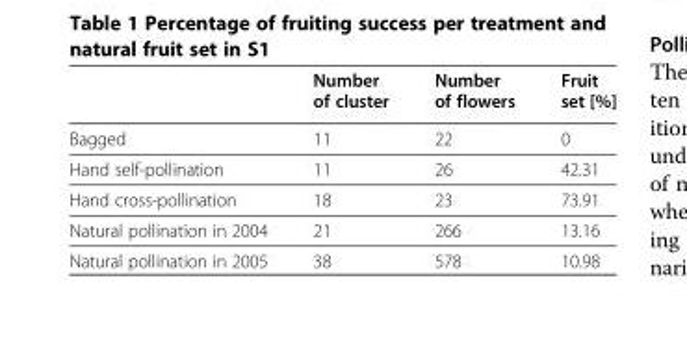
<table><thead><tr><td></td><td>Number of cluster</td><td>Number of flowers</td><td>Fruit set [%]</td></tr></thead><tbody><tr><td>Bagged</td><td>11</td><td>22</td><td>0</td></tr><tr><td>Hand self-pollination</td><td>11</td><td>26</td><td>42.31</td></tr><tr><td>Hand cross-pollination</td><td>18</td><td>23</td><td>73.91</td></tr><tr><td>Natural pollination in 2004</td><td>21</td><td>266</td><td>13.16</td></tr><tr><td>Natural pollination in 2005</td><td>38</td><td>578</td><td>10.98</td></tr></tbody></table>